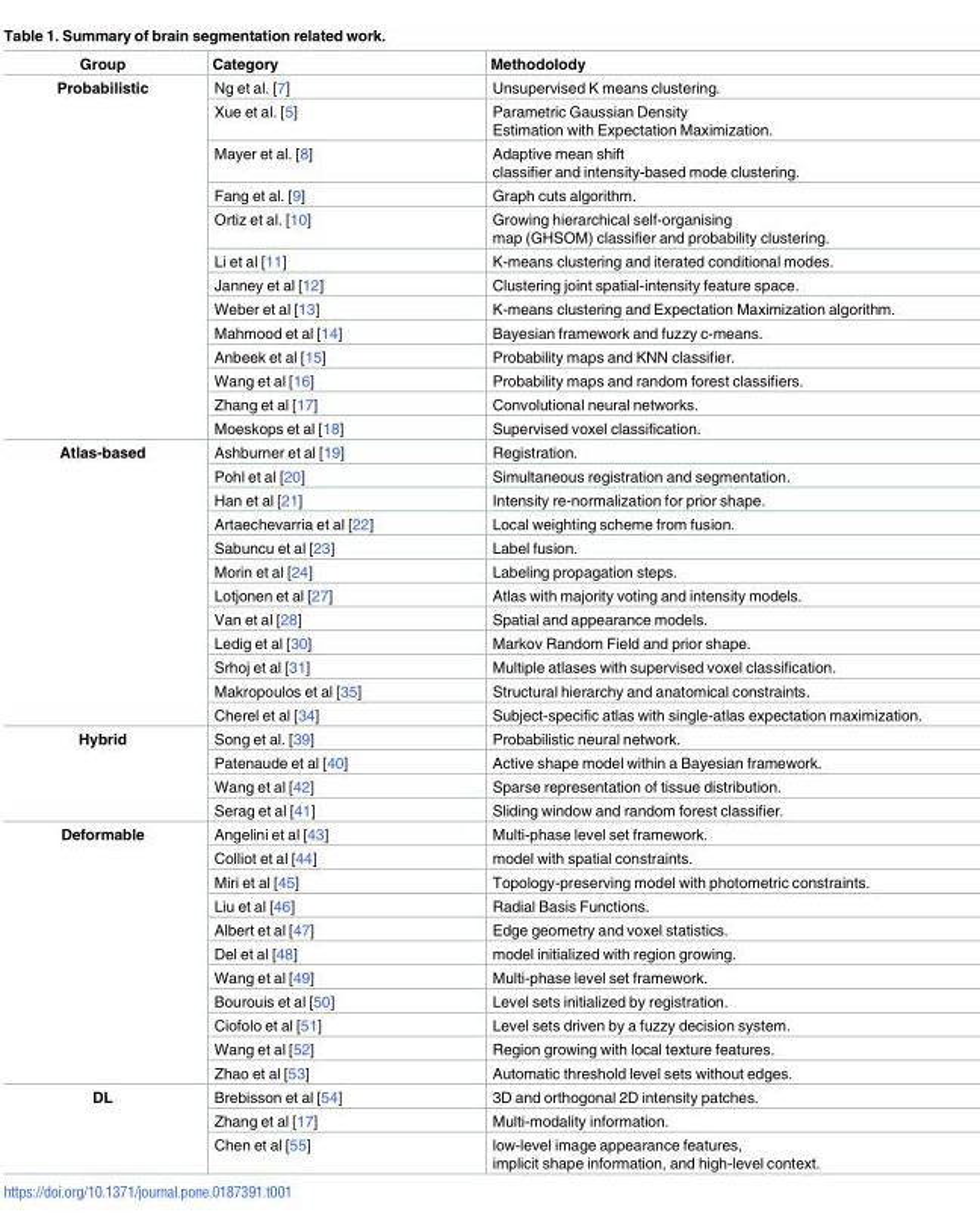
<table><thead><tr><td>Group</td><td>Category</td><td>Methodolody</td></tr></thead><tbody><tr><td rowspan="13">Probabilistic</td><td>Ng et al. [7]</td><td>Unsupervised K means clustering.</td></tr><tr><td>Xue et al. [5]</td><td>Parametric Gaussian Density Estimation with Expectation Maximization.</td></tr><tr><td>Mayer et al. [8]</td><td>Adaptive mean shift classifier and intensity-based mode clustering.</td></tr><tr><td>Fang et al. [9]</td><td>Graph cuts algorithm.</td></tr><tr><td>Ortiz et al. [10]</td><td>Growing hierarchical self-organising map (GHSOM) classifier and probability clustering.</td></tr><tr><td>Li et al [11]</td><td>K-means clustering and iterated conditional modes.</td></tr><tr><td>Janney et al [12]</td><td>Clustering joint spatial-intensity feature space.</td></tr><tr><td>Weber et al [13]</td><td>K-means clustering and Expectation Maximization algorithm.</td></tr><tr><td>Mahmood et al [14]</td><td>Bayesian framework and fuzzy c-means.</td></tr><tr><td>Anbeek et al [15]</td><td>Probability maps and KNN classifier.</td></tr><tr><td>Wang et al [16]</td><td>Probability maps and random forest classifiers.</td></tr><tr><td>Zhang et al [17]</td><td>Convolutional neural networks.</td></tr><tr><td>Moeskops et al [18]</td><td>Supervised voxel classification.</td></tr><tr><td rowspan="12">Atlas-based</td><td>Ashburner et al [19]</td><td>Registration.</td></tr><tr><td>Pohl et al [20]</td><td>Simultaneous registration and segmentation.</td></tr><tr><td>Han et al [21]</td><td>Intensity re-normalization for prior shape.</td></tr><tr><td>Artaechevarria et al [22]</td><td>Local weighting scheme from fusion.</td></tr><tr><td>Sabuncu et al [23]</td><td>Label fusion.</td></tr><tr><td>Morin et al [24]</td><td>Labeling propagation steps.</td></tr><tr><td>Lotjonen et al [27]</td><td>Atlas with majority voting and intensity models.</td></tr><tr><td>Van et al [28]</td><td>Spatial and appearance models.</td></tr><tr><td>Ledig et al [30]</td><td>Markov Random Field and prior shape.</td></tr><tr><td>Srhoj et al [31]</td><td>Multiple atlases with supervised voxel classification.</td></tr><tr><td>Makropoulos et al [35]</td><td>Structural hierarchy and anatomical constraints.</td></tr><tr><td>Cherel et al [34]</td><td>Subject-specific atlas with single-atlas expectation maximization.</td></tr><tr><td rowspan="4">Hybrid</td><td>Song et al. [39]</td><td>Probabilistic neural network.</td></tr><tr><td>Patenaude et al [40]</td><td>Active shape model within a Bayesian framework.</td></tr><tr><td>Wang et al [42]</td><td>Sparse representation of tissue distribution.</td></tr><tr><td>Serag et al [41]</td><td>Sliding window and random forest classifier.</td></tr><tr><td rowspan="11">Deformable</td><td>Angelini et al [43]</td><td>Multi-phase level set framework.</td></tr><tr><td>Colliot et al [44]</td><td>model with spatial constraints.</td></tr><tr><td>Miri et al [45]</td><td>Topology-preserving model with photometric constraints.</td></tr><tr><td>Liu et al [46]</td><td>Radial Basis Functions.</td></tr><tr><td>Albert et al [47]</td><td>Edge geometry and voxel statistics.</td></tr><tr><td>Del et al [48]</td><td>model initialized with region growing.</td></tr><tr><td>Wang et al [49]</td><td>Multi-phase level set framework.</td></tr><tr><td>Bourouis et al [50]</td><td>Level sets initialized by registration.</td></tr><tr><td>Ciofolo et al [51]</td><td>Level sets driven by a fuzzy decision system.</td></tr><tr><td>Wang et al [52]</td><td>Region growing with local texture features.</td></tr><tr><td>Zhao et al [53]</td><td>Automatic threshold level sets without edges.</td></tr><tr><td rowspan="3">DL</td><td>Brebisson et al [54]</td><td>3D and orthogonal 2D intensity patches.</td></tr><tr><td>Zhang et al [17]</td><td>Multi-modality information.</td></tr><tr><td>Chen et al [55]</td><td>low-level image appearance features, implicit shape information, and high-level context.</td></tr></tbody></table>